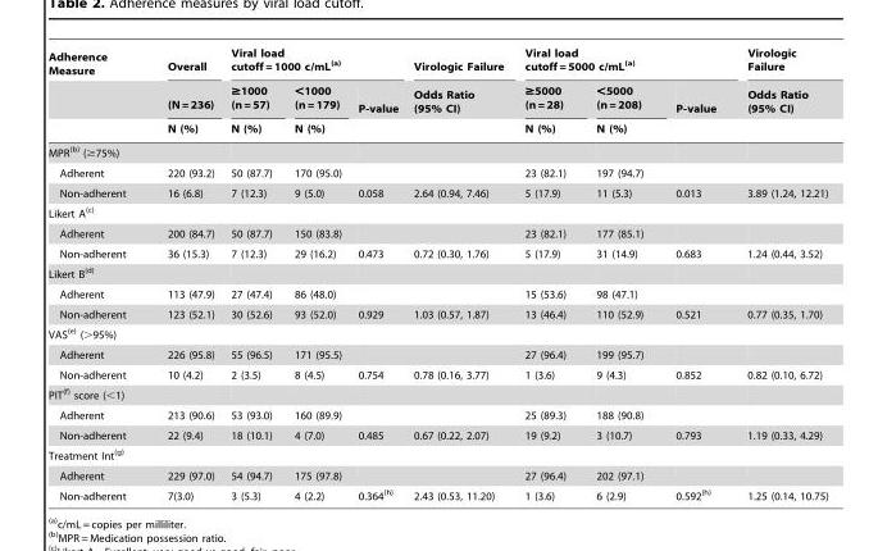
<table><thead><tr><td rowspan="3">Adherence Measure</td><td rowspan="3">Overall (N = 236) N (%)</td><td colspan="3">Viral load cutoff = 1000 c/mL(a)</td><td rowspan="3">Virologic Failure Odds Ratio (95% CI)</td><td colspan="3">Viral load cutoff = 5000 c/mL(a)</td><td rowspan="3">Virologic Failure Odds Ratio (95% CI)</td></tr><tr><td rowspan="2">≥1000 (n = 57) N (%)</td><td rowspan="2">&lt;1000 (n = 179) N (%)</td><td rowspan="2">P-value</td><td rowspan="2">≥5000 (n = 28) N (%)</td><td rowspan="2">&lt;5000 (n = 208) N (%)</td><td rowspan="2">P-value</td></tr><tr></tr></thead><tbody><tr><td colspan="10">MPR(b) (≥75%)</td></tr><tr><td>Adherent</td><td>220 (93.2)</td><td>50 (87.7)</td><td>170 (95.0)</td><td></td><td></td><td>23 (82.1)</td><td>197 (94.7)</td><td></td><td></td></tr><tr><td>Non-adherent</td><td>16 (6.8)</td><td>7 (12.3)</td><td>9 (5.0)</td><td>0.058</td><td>2.64 (0.94, 7.46)</td><td>5 (17.9)</td><td>11 (5.3)</td><td>0.013</td><td>3.89 (1.24, 12.21)</td></tr><tr><td colspan="10">Likert A(c)</td></tr><tr><td>Adherent</td><td>200 (84.7)</td><td>50 (87.7)</td><td>150 (83.8)</td><td></td><td></td><td>23 (82.1)</td><td>177 (85.1)</td><td></td><td></td></tr><tr><td>Non-adherent</td><td>36 (15.3)</td><td>7 (12.3)</td><td>29 (16.2)</td><td>0.473</td><td>0.72 (0.30, 1.76)</td><td>5 (17.9)</td><td>31 (14.9)</td><td>0.683</td><td>1.24 (0.44, 3.52)</td></tr><tr><td colspan="10">Likert B(d)</td></tr><tr><td>Adherent</td><td>113 (47.9)</td><td>27 (47.4)</td><td>86 (48.0)</td><td></td><td></td><td>15 (53.6)</td><td>98 (47.1)</td><td></td><td></td></tr><tr><td>Non-adherent</td><td>123 (52.1)</td><td>30 (52.6)</td><td>93 (52.0)</td><td>0.929</td><td>1.03 (0.57, 1.87)</td><td>13 (46.4)</td><td>110 (52.9)</td><td>0.521</td><td>0.77 (0.35, 1.70)</td></tr><tr><td colspan="10">VAS(e) (&gt;95%)</td></tr><tr><td>Adherent</td><td>226 (95.8)</td><td>55 (96.5)</td><td>171 (95.5)</td><td></td><td></td><td>27 (96.4)</td><td>199 (95.7)</td><td></td><td></td></tr><tr><td>Non-adherent</td><td>10 (4.2)</td><td>2 (3.5)</td><td>8 (4.5)</td><td>0.754</td><td>0.78 (0.16, 3.77)</td><td>1 (3.6)</td><td>9 (4.3)</td><td>0.852</td><td>0.82 (0.10, 6.72)</td></tr><tr><td colspan="10">PIT(f) score (&lt;1)</td></tr><tr><td>Adherent</td><td>213 (90.6)</td><td>53 (93.0)</td><td>160 (89.9)</td><td></td><td></td><td>25 (89.3)</td><td>188 (90.8)</td><td></td><td></td></tr><tr><td>Non-adherent</td><td>22 (9.4)</td><td>18 (10.1)</td><td>4 (7.0)</td><td>0.485</td><td>0.67 (0.22, 2.07)</td><td>19 (9.2)</td><td>3 (10.7)</td><td>0.793</td><td>1.19 (0.33, 4.29)</td></tr><tr><td colspan="10">Treatment Int(g)</td></tr><tr><td>Adherent</td><td>229 (97.0)</td><td>54 (94.7)</td><td>175 (97.8)</td><td></td><td></td><td>27 (96.4)</td><td>202 (97.1)</td><td></td><td></td></tr><tr><td>Non-adherent</td><td>7(3.0)</td><td>3 (5.3)</td><td>4 (2.2)</td><td>0.364(h)</td><td>2.43 (0.53, 11.20)</td><td>1 (3.6)</td><td>6 (2.9)</td><td>0.592(h)</td><td>1.25 (0.14, 10.75)</td></tr></tbody></table>